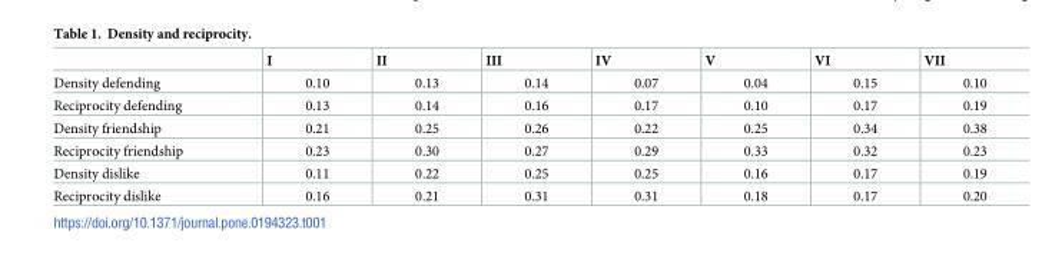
<table><thead><tr><td></td><td>I</td><td>II</td><td>III</td><td>IV</td><td>V</td><td>VI</td><td>VII</td></tr></thead><tbody><tr><td>Density defending</td><td>0.10</td><td>0.13</td><td>0.14</td><td>0.07</td><td>0.04</td><td>0.15</td><td>0.10</td></tr><tr><td>Reciprocity defending</td><td>0.13</td><td>0.14</td><td>0.16</td><td>0.17</td><td>0.10</td><td>0.17</td><td>0.19</td></tr><tr><td>Density friendship</td><td>0.21</td><td>0.25</td><td>0.26</td><td>0.22</td><td>0.25</td><td>0.34</td><td>0.38</td></tr><tr><td>Reciprocity friendship</td><td>0.23</td><td>0.30</td><td>0.27</td><td>0.29</td><td>0.33</td><td>0.32</td><td>0.23</td></tr><tr><td>Density dislike</td><td>0.11</td><td>0.22</td><td>0.25</td><td>0.25</td><td>0.16</td><td>0.17</td><td>0.19</td></tr><tr><td>Reciprocity dislike</td><td>0.16</td><td>0.21</td><td>0.31</td><td>0.31</td><td>0.18</td><td>0.17</td><td>0.20</td></tr></tbody></table>